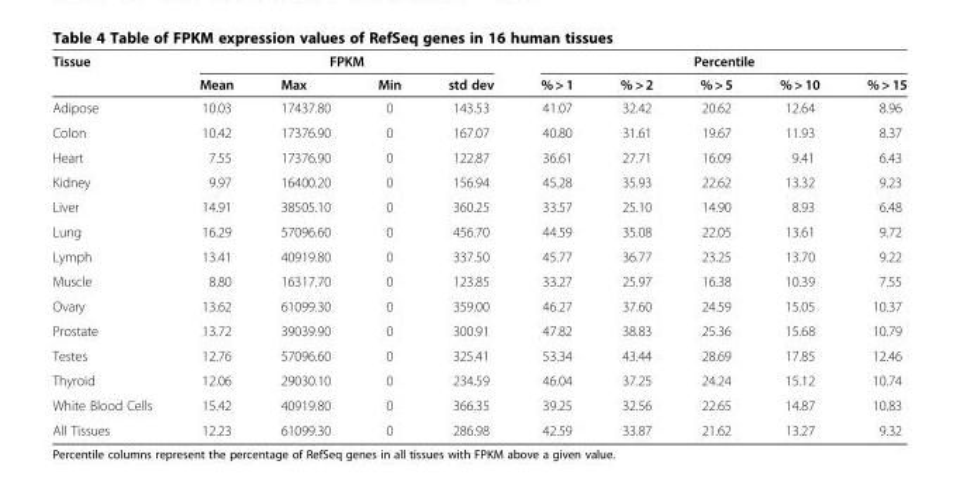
<table><thead><tr><td rowspan="2">Tissue</td><td colspan="4">FPKM</td><td colspan="5">Percentile</td></tr><tr><td>Mean</td><td>Max</td><td>Min</td><td>std dev</td><td>% &gt; 1</td><td>% &gt; 2</td><td>% &gt; 5</td><td>% &gt; 10</td><td>% &gt; 15</td></tr></thead><tbody><tr><td>Adipose</td><td>10.03</td><td>17437.80</td><td>0</td><td>143.53</td><td>41.07</td><td>32.42</td><td>20.62</td><td>12.64</td><td>8.96</td></tr><tr><td>Colon</td><td>10.42</td><td>17376.90</td><td>0</td><td>167.07</td><td>40.80</td><td>31.61</td><td>19.67</td><td>11.93</td><td>8.37</td></tr><tr><td>Heart</td><td>7.55</td><td>17376.90</td><td>0</td><td>122.87</td><td>36.61</td><td>27.71</td><td>16.09</td><td>9.41</td><td>6.43</td></tr><tr><td>Kidney</td><td>9.97</td><td>16400.20</td><td>0</td><td>156.94</td><td>45.28</td><td>35.93</td><td>22.62</td><td>13.32</td><td>9.23</td></tr><tr><td>Liver</td><td>14.91</td><td>38505.10</td><td>0</td><td>360.25</td><td>33.57</td><td>25.10</td><td>14.90</td><td>8.93</td><td>6.48</td></tr><tr><td>Lung</td><td>16.29</td><td>57096.60</td><td>0</td><td>456.70</td><td>44.59</td><td>35.08</td><td>22.05</td><td>13.61</td><td>9.72</td></tr><tr><td>Lymph</td><td>13.41</td><td>40919.80</td><td>0</td><td>337.50</td><td>45.77</td><td>36.77</td><td>23.25</td><td>13.70</td><td>9.22</td></tr><tr><td>Muscle</td><td>8.80</td><td>16317.70</td><td>0</td><td>123.85</td><td>33.27</td><td>25.97</td><td>16.38</td><td>10.39</td><td>7.55</td></tr><tr><td>Ovary</td><td>13.62</td><td>61099.30</td><td>0</td><td>359.00</td><td>46.27</td><td>37.60</td><td>24.59</td><td>15.05</td><td>10.37</td></tr><tr><td>Prostate</td><td>13.72</td><td>39039.90</td><td>0</td><td>300.91</td><td>47.82</td><td>38.83</td><td>25.36</td><td>15.68</td><td>10.79</td></tr><tr><td>Testes</td><td>12.76</td><td>57096.60</td><td>0</td><td>325.41</td><td>53.34</td><td>43.44</td><td>28.69</td><td>17.85</td><td>12.46</td></tr><tr><td>Thyroid</td><td>12.06</td><td>29030.10</td><td>0</td><td>234.59</td><td>46.04</td><td>37.25</td><td>24.24</td><td>15.12</td><td>10.74</td></tr><tr><td>White Blood Cells</td><td>15.42</td><td>40919.80</td><td>0</td><td>366.35</td><td>39.25</td><td>32.56</td><td>22.65</td><td>14.87</td><td>10.83</td></tr><tr><td>All Tissues</td><td>12.23</td><td>61099.30</td><td>0</td><td>286.98</td><td>42.59</td><td>33.87</td><td>21.62</td><td>13.27</td><td>9.32</td></tr></tbody></table>